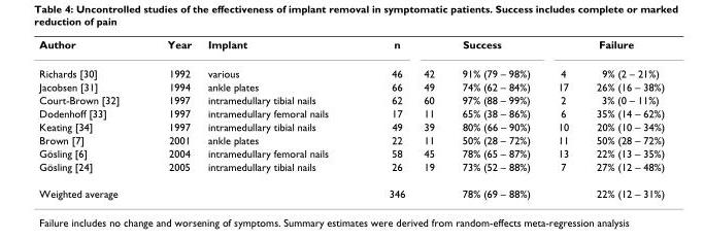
<table><tbody><tr><td>Author</td><td>Year</td><td>Implant</td><td>n</td><td colspan="2">Success</td><td colspan="2">Failure</td></tr><tr><td>Richards [30]</td><td>1992</td><td>various</td><td>46</td><td>42</td><td>91% (79 – 98%)</td><td>4</td><td>9% (2 – 21%)</td></tr><tr><td>Jacobsen [31]</td><td>1994</td><td>ankle plates</td><td>66</td><td>49</td><td>74% (62 – 84%)</td><td>17</td><td>26% (16 – 38%)</td></tr><tr><td>Court-Brown [32]</td><td>1997</td><td>intramedullary tibial nails</td><td>62</td><td>60</td><td>97% (88 – 99%)</td><td>2</td><td>3% (0 – 11%)</td></tr><tr><td>Dodenhoff [33]</td><td>1997</td><td>intramedullary femoral nails</td><td>17</td><td>11</td><td>65% (38 – 86%)</td><td>6</td><td>35% (14 – 62%)</td></tr><tr><td>Keating [34]</td><td>1997</td><td>intramedullary tibial nails</td><td>49</td><td>39</td><td>80% (66 – 90%)</td><td>10</td><td>20% (10 – 34%)</td></tr><tr><td>Brown [7]</td><td>2001</td><td>ankle plates</td><td>22</td><td>11</td><td>50% (28 – 72%)</td><td>11</td><td>50% (28 – 72%)</td></tr><tr><td>Gösling [6]</td><td>2004</td><td>intramedullary femoral nails</td><td>58</td><td>45</td><td>78% (65 – 87%)</td><td>13</td><td>22% (13 – 35%)</td></tr><tr><td>Gösling [24]</td><td>2005</td><td>intramedullary tibial nails</td><td>26</td><td>19</td><td>73% (52 – 88%)</td><td>7</td><td>27% (12 – 48%)</td></tr><tr><td>Weighted average</td><td></td><td></td><td>346</td><td></td><td>78% (69 – 88%)</td><td></td><td>22% (12 – 31%)</td></tr></tbody></table>